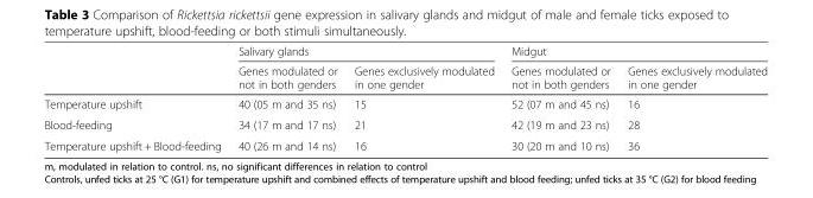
<table><thead><tr><td rowspan="2"></td><td colspan="2">Salivary glands</td><td colspan="2">Midgut</td></tr><tr><td>Genes modulated or not in both genders</td><td>Genes exclusively modulated in one gender</td><td>Genes modulated or not in both genders</td><td>Genes exclusively modulated in one gender</td></tr></thead><tbody><tr><td>Temperature upshift</td><td>40 (05 m and 35 ns)</td><td>15</td><td>52 (07 m and 45 ns)</td><td>16</td></tr><tr><td>Blood-feeding</td><td>34 (17 m and 17 ns)</td><td>21</td><td>42 (19 m and 23 ns)</td><td>28</td></tr><tr><td>Temperature upshift + Blood-feeding</td><td>40 (26 m and 14 ns)</td><td>16</td><td>30 (20 m and 10 ns)</td><td>36</td></tr></tbody></table>